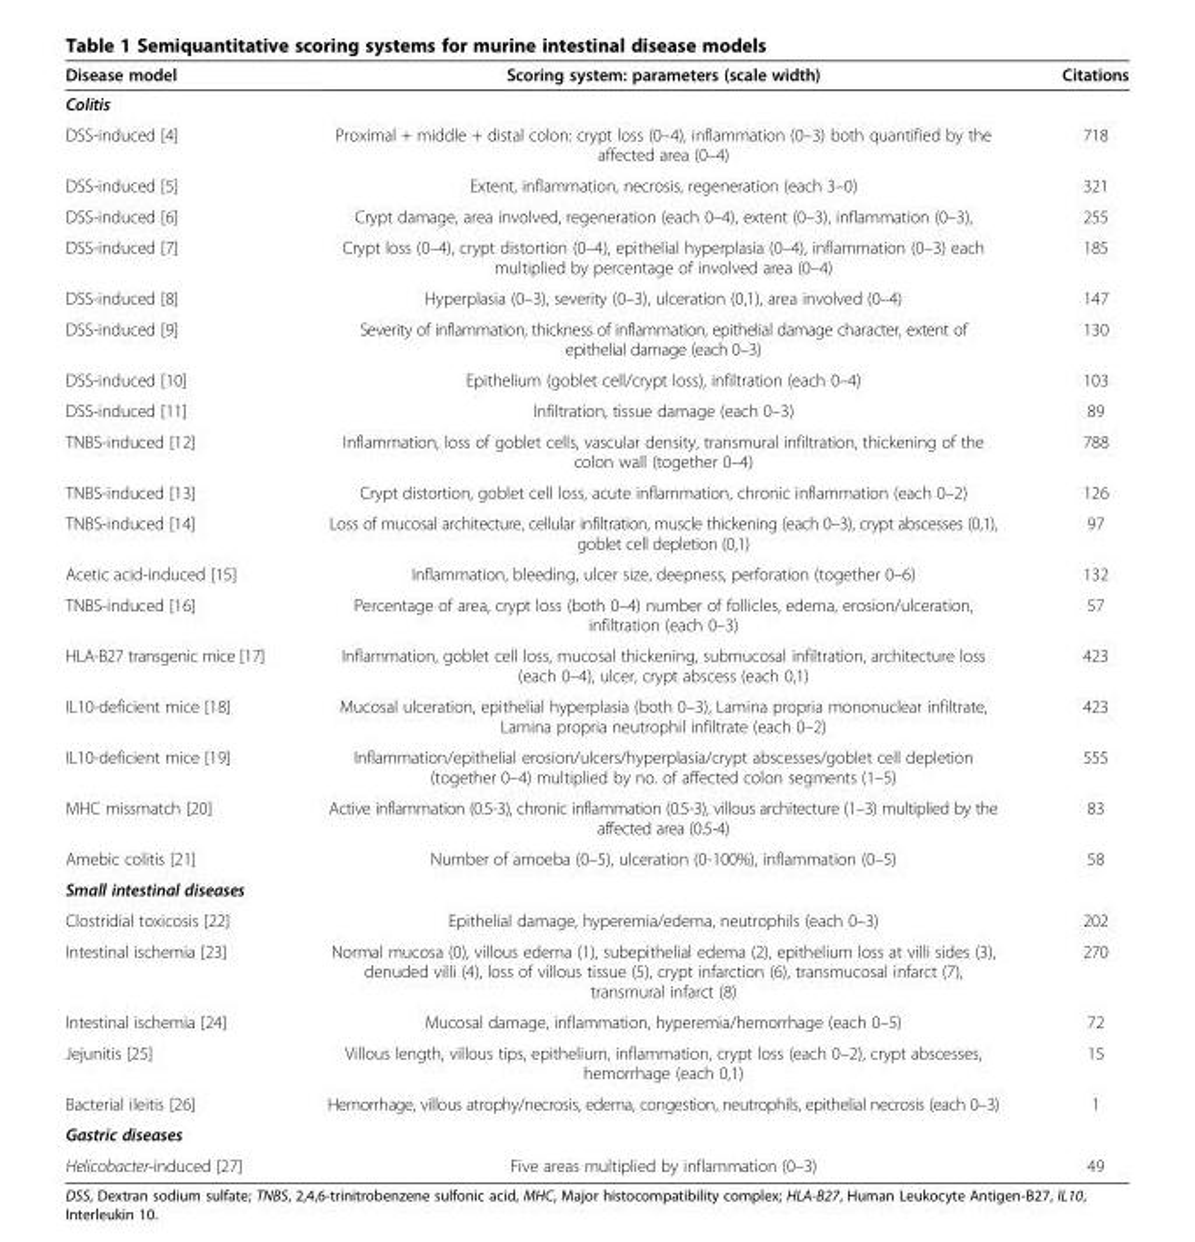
<table><thead><tr><td>Disease model</td><td>Scoring system: parameters (scale width)</td><td>Citations</td></tr></thead><tbody><tr><td colspan="3">Colitis</td></tr><tr><td>DSS-induced [4]</td><td>Proximal + middle + distal colon: crypt loss (0–4), inflammation (0–3) both quantified by the affected area (0–4)</td><td>718</td></tr><tr><td>DSS-induced [5]</td><td>Extent, inflammation, necrosis, regeneration (each 3–0)</td><td>321</td></tr><tr><td>DSS-induced [6]</td><td>Crypt damage, area involved, regeneration (each 0–4), extent (0–3), inflammation (0–3),</td><td>255</td></tr><tr><td>DSS-induced [7]</td><td>Crypt loss (0–4), crypt distortion (0–4), epithelial hyperplasia (0–4), inflammation (0–3) each multiplied by percentage of involved area (0–4)</td><td>185</td></tr><tr><td>DSS-induced [8]</td><td>Hyperplasia (0–3), severity (0–3), ulceration (0,1), area involved (0–4)</td><td>147</td></tr><tr><td>DSS-induced [9]</td><td>Severity of inflammation, thickness of inflammation, epithelial damage character, extent of epithelial damage (each 0–3)</td><td>130</td></tr><tr><td>DSS-induced [10]</td><td>Epithelium (goblet cell/crypt loss), infiltration (each 0–4)</td><td>103</td></tr><tr><td>DSS-induced [11]</td><td>Infiltration, tissue damage (each 0–3)</td><td>89</td></tr><tr><td>TNBS-induced [12]</td><td>Inflammation, loss of goblet cells, vascular density, transmural infiltration, thickening of the colon wall (together 0–4)</td><td>788</td></tr><tr><td>TNBS-induced [13]</td><td>Crypt distortion, goblet cell loss, acute inflammation, chronic inflammation (each 0–2)</td><td>126</td></tr><tr><td>TNBS-induced [14]</td><td>Loss of mucosal architecture, cellular infiltration, muscle thickening (each 0–3), crypt abscesses (0,1), goblet cell depletion (0,1)</td><td>97</td></tr><tr><td>Acetic acid-induced [15]</td><td>Inflammation, bleeding, ulcer size, deepness, perforation (together 0–6)</td><td>132</td></tr><tr><td>TNBS-induced [16]</td><td>Percentage of area, crypt loss (both 0–4) number of follicles, edema, erosion/ulceration, infiltration (each 0–3)</td><td>57</td></tr><tr><td>HLA-B27 transgenic mice [17]</td><td>Inflammation, goblet cell loss, mucosal thickening, submucosal infiltration, architecture loss (each 0–4), ulcer, crypt abscess (each 0,1)</td><td>423</td></tr><tr><td>IL10-deficient mice [18]</td><td>Mucosal ulceration, epithelial hyperplasia (both 0–3), Lamina propria mononuclear infiltrate, Lamina propria neutrophil infiltrate (each 0–2)</td><td>423</td></tr><tr><td>IL10-deficient mice [19]</td><td>Inflammation/epithelial erosion/ulcers/hyperplasia/crypt abscesses/goblet cell depletion (together 0–4) multiplied by no. of affected colon segments (1–5)</td><td>555</td></tr><tr><td>MHC missmatch [20]</td><td>Active inflammation (0.5-3), chronic inflammation (0.5-3), villous architecture (1–3) multiplied by the affected area (0.5-4)</td><td>83</td></tr><tr><td>Amebic colitis [21]</td><td>Number of amoeba (0–5), ulceration (0-100%), inflammation (0–5)</td><td>58</td></tr><tr><td colspan="3">Small intestinal diseases</td></tr><tr><td>Clostridial toxicosis [22]</td><td>Epithelial damage, hyperemia/edema, neutrophils (each 0–3)</td><td>202</td></tr><tr><td>Intestinal ischemia [23]</td><td>Normal mucosa (0), villous edema (1), subepithelial edema (2), epithelium loss at villi sides (3), denuded villi (4), loss of villous tissue (5), crypt infarction (6), transmucosal infarct (7), transmural infarct (8)</td><td>270</td></tr><tr><td>Intestinal ischemia [24]</td><td>Mucosal damage, inflammation, hyperemia/hemorrhage (each 0–5)</td><td>72</td></tr><tr><td>Jejunitis [25]</td><td>Villous length, villous tips, epithelium, inflammation, crypt loss (each 0–2), crypt abscesses, hemorrhage (each 0,1)</td><td>15</td></tr><tr><td>Bacterial ileitis [26]</td><td>Hemorrhage, villous atrophy/necrosis, edema, congestion, neutrophils, epithelial necrosis (each 0–3)</td><td>1</td></tr><tr><td colspan="3">Gastric diseases</td></tr><tr><td>Helicobacter-induced [27]</td><td>Five areas multiplied by inflammation (0–3)</td><td>49</td></tr></tbody></table>